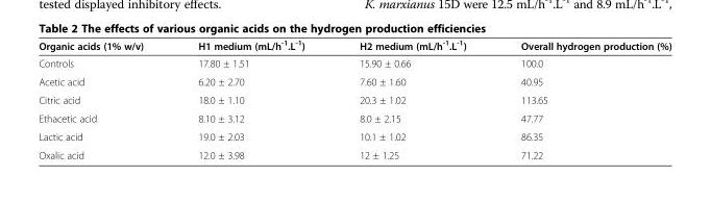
<table><thead><tr><td>Organic acids (1% w/v)</td><td>H1 medium (mL/h<sup>-1</sup>.L<sup>-1</sup>)</td><td>H2 medium (mL/h<sup>-1</sup>.L<sup>-1</sup>)</td><td>Overall hydrogen production (%)</td></tr></thead><tbody><tr><td>Controls</td><td>17.80 ± 1.51</td><td>15.90 ± 0.66</td><td>100.0</td></tr><tr><td>Acetic acid</td><td>6.20 ± 2.70</td><td>7.60 ± 1.60</td><td>40.95</td></tr><tr><td>Citric acid</td><td>18.0 ± 1.10</td><td>20.3 ± 1.02</td><td>113.65</td></tr><tr><td>Ethacetic acid</td><td>8.10 ± 3.12</td><td>8.0 ± 2.15</td><td>47.77</td></tr><tr><td>Lactic acid</td><td>19.0 ± 2.03</td><td>10.1 ± 1.02</td><td>86.35</td></tr><tr><td>Oxalic acid</td><td>12.0 ± 3.98</td><td>12 ± 1.25</td><td>71.22</td></tr></tbody></table>